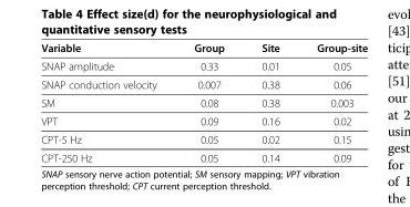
<table><thead><tr><td>Variable</td><td>Group</td><td>Site</td><td>Group-site</td></tr></thead><tbody><tr><td>SNAP amplitude</td><td>0.33</td><td>0.01</td><td>0.05</td></tr><tr><td>SNAP conduction velocity</td><td>0.007</td><td>0.38</td><td>0.06</td></tr><tr><td>SM</td><td>0.08</td><td>0.38</td><td>0.003</td></tr><tr><td>VPT</td><td>0.09</td><td>0.16</td><td>0.02</td></tr><tr><td>CPT-5 Hz</td><td>0.05</td><td>0.02</td><td>0.15</td></tr><tr><td>CPT-250 Hz</td><td>0.05</td><td>0.14</td><td>0.09</td></tr></tbody></table>